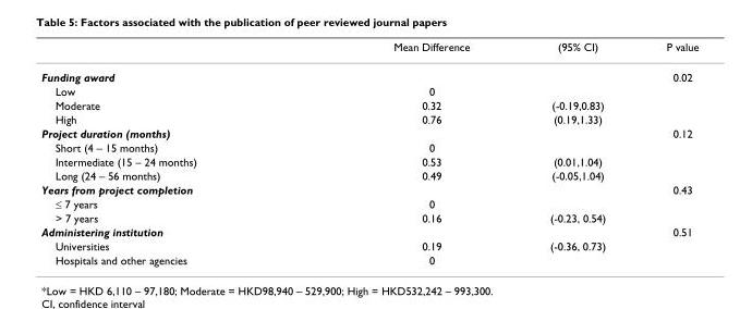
<table><thead><tr><td></td><td>Mean Difference</td><td>(95% CI)</td><td>P value</td></tr></thead><tbody><tr><td>Funding award</td><td></td><td></td><td>0.02</td></tr><tr><td>Low</td><td>0</td><td></td><td></td></tr><tr><td>Moderate</td><td>0.32</td><td>(-0.19,0.83)</td><td></td></tr><tr><td>High</td><td>0.76</td><td>(0.19,1.33)</td><td></td></tr><tr><td>Project duration (months)</td><td></td><td></td><td>0.12</td></tr><tr><td>Short (4 – 15 months)</td><td>0</td><td></td><td></td></tr><tr><td>Intermediate (15 – 24 months)</td><td>0.53</td><td>(0.01,1.04)</td><td></td></tr><tr><td>Long (24 – 56 months)</td><td>0.49</td><td>(-0.05,1.04)</td><td></td></tr><tr><td>Years from project completion</td><td></td><td></td><td>0.43</td></tr><tr><td>≤ 7 years</td><td>0</td><td></td><td></td></tr><tr><td>&gt; 7 years</td><td>0.16</td><td>(-0.23, 0.54)</td><td></td></tr><tr><td>Administering institution</td><td></td><td></td><td>0.51</td></tr><tr><td>Universities</td><td>0.19</td><td>(-0.36, 0.73)</td><td></td></tr><tr><td>Hospitals and other agencies</td><td>0</td><td></td><td></td></tr></tbody></table>